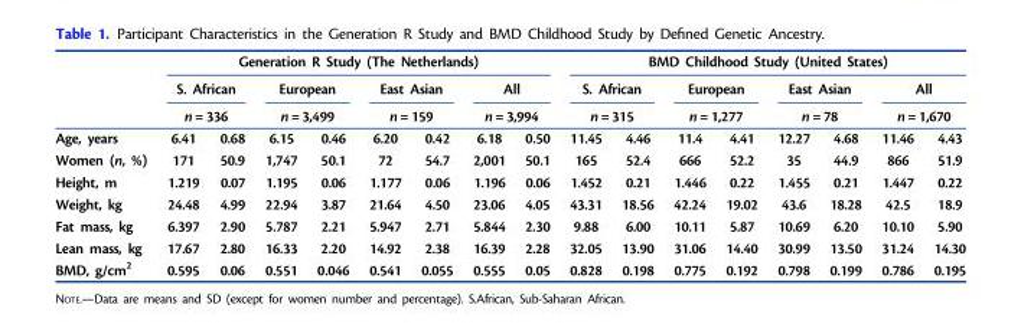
<table><thead><tr><td rowspan="4">Age, years</td><td colspan="8">Generation R Study (The Netherlands)</td><td colspan="8">BMD Childhood Study (United States)</td></tr><tr><td rowspan="2" colspan="2">S. African n=336</td><td rowspan="2" colspan="2">European n=3,499</td><td rowspan="2" colspan="2">East Asian n=159</td><td rowspan="2" colspan="2">All n=3,994</td><td rowspan="2" colspan="2">S. African n=315</td><td rowspan="2" colspan="2">European n=1,277</td><td rowspan="2" colspan="2">East Asian n=78</td><td rowspan="2" colspan="2">All n=1,670</td></tr><tr></tr><tr><td>6.41</td><td>0.68</td><td>6.15</td><td>0.46</td><td>6.20</td><td>0.42</td><td>6.18</td><td>0.50</td><td>11.45</td><td>4.46</td><td>11.4</td><td>4.41</td><td>12.27</td><td>4.68</td><td>11.46</td><td>4.43</td></tr></thead><tbody><tr><td>Women (n, %)</td><td>171</td><td>50.9</td><td>1,747</td><td>50.1</td><td>72</td><td>54.7</td><td>2,001</td><td>50.1</td><td>165</td><td>52.4</td><td>666</td><td>52.2</td><td>35</td><td>44.9</td><td>866</td><td>51.9</td></tr><tr><td>Height, m</td><td>1.219</td><td>0.07</td><td>1.195</td><td>0.06</td><td>1.177</td><td>0.06</td><td>1.196</td><td>0.06</td><td>1.452</td><td>0.21</td><td>1.446</td><td>0.22</td><td>1.455</td><td>0.21</td><td>1.447</td><td>0.22</td></tr><tr><td>Weight, kg</td><td>24.48</td><td>4.99</td><td>22.94</td><td>3.87</td><td>21.64</td><td>4.50</td><td>23.06</td><td>4.05</td><td>43.31</td><td>18.56</td><td>42.24</td><td>19.02</td><td>43.6</td><td>18.28</td><td>42.5</td><td>18.9</td></tr><tr><td>Fat mass, kg</td><td>6.397</td><td>2.90</td><td>5.787</td><td>2.21</td><td>5.947</td><td>2.71</td><td>5.844</td><td>2.30</td><td>9.88</td><td>6.00</td><td>10.11</td><td>5.87</td><td>10.69</td><td>6.20</td><td>10.10</td><td>5.90</td></tr><tr><td>Lean mass, kg</td><td>17.67</td><td>2.80</td><td>16.33</td><td>2.20</td><td>14.92</td><td>2.38</td><td>16.39</td><td>2.28</td><td>32.05</td><td>13.90</td><td>31.06</td><td>14.40</td><td>30.99</td><td>13.50</td><td>31.24</td><td>14.30</td></tr><tr><td>BMD, g/cm<sup>2</sup></td><td>0.595</td><td>0.06</td><td>0.551</td><td>0.046</td><td>0.541</td><td>0.055</td><td>0.555</td><td>0.05</td><td>0.828</td><td>0.198</td><td>0.775</td><td>0.192</td><td>0.798</td><td>0.199</td><td>0.786</td><td>0.195</td></tr></tbody></table>